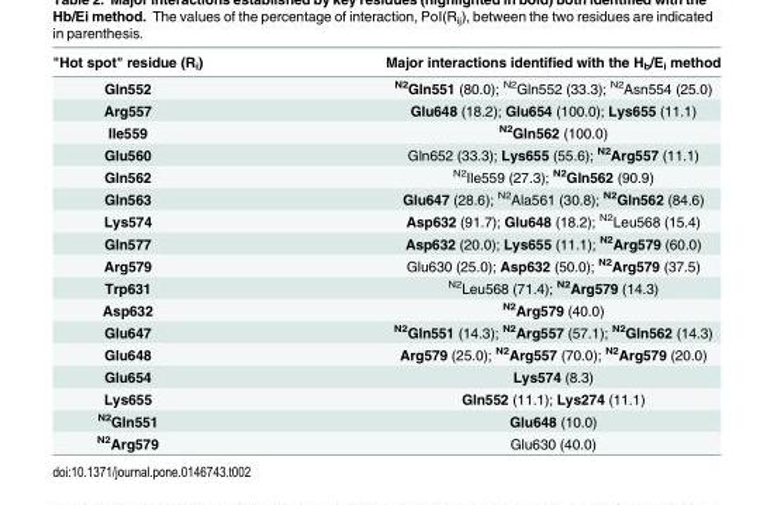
<table><thead><tr><td>&quot;Hot spot&quot; residue (R<sub>i</sub>)</td><td>Major interactions identified with the H<sub>b</sub>/E<sub>i</sub> method</td></tr></thead><tbody><tr><td>Gln552</td><td><sup>N2</sup>Gln551 (80.0); <sup>N2</sup>Gln552 (33.3); <sup>N2</sup>Asn554 (25.0)</td></tr><tr><td>Arg557</td><td>Glu648 (18.2); Glu654 (100.0); Lys655 (11.1)</td></tr><tr><td>Ile559</td><td><sup>N2</sup>Gln562 (100.0)</td></tr><tr><td>Glu560</td><td>Gln652 (33.3); Lys655 (55.6); <sup>N2</sup>Arg557 (11.1)</td></tr><tr><td>Gln562</td><td><sup>N2</sup>Ile559 (27.3); <sup>N2</sup>Gln562 (90.9)</td></tr><tr><td>Gln563</td><td>Glu647 (28.6); <sup>N2</sup>Ala561 (30.8); <sup>N2</sup>Gln562 (84.6)</td></tr><tr><td>Lys574</td><td>Asp632 (91.7); Glu648 (18.2); <sup>N2</sup>Leu568 (15.4)</td></tr><tr><td>Gln577</td><td>Asp632 (20.0); Lys655 (11.1); <sup>N2</sup>Arg579 (60.0)</td></tr><tr><td>Arg579</td><td>Glu630 (25.0); Asp632 (50.0); <sup>N2</sup>Arg579 (37.5)</td></tr><tr><td>Trp631</td><td><sup>N2</sup>Leu568 (71.4); <sup>N2</sup>Arg579 (14.3)</td></tr><tr><td>Asp632</td><td><sup>N2</sup>Arg579 (40.0)</td></tr><tr><td>Glu647</td><td><sup>N2</sup>Gln551 (14.3); <sup>N2</sup>Arg557 (57.1); <sup>N2</sup>Gln562 (14.3)</td></tr><tr><td>Glu648</td><td>Arg579 (25.0); <sup>N2</sup>Arg557 (70.0); <sup>N2</sup>Arg579 (20.0)</td></tr><tr><td>Glu654</td><td>Lys574 (8.3)</td></tr><tr><td>Lys655</td><td>Gln552 (11.1); Lys274 (11.1)</td></tr><tr><td><sup>N2</sup>Gln551</td><td>Glu648 (10.0)</td></tr><tr><td><sup>N2</sup>Arg579</td><td>Glu630 (40.0)</td></tr></tbody></table>